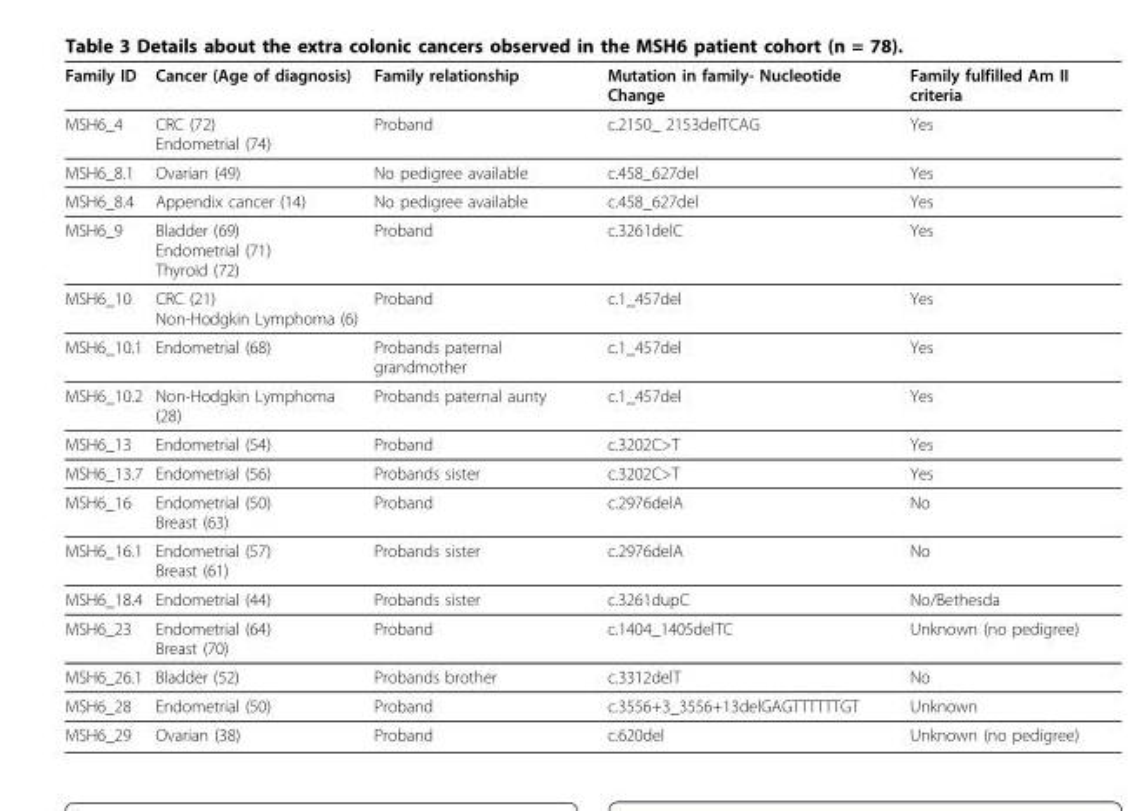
<table><thead><tr><td>Family ID</td><td>Cancer (Age of diagnosis)</td><td>Family relationship</td><td>Mutation in family- Nucleotide Change</td><td>Family fulfilled Am II criteria</td></tr></thead><tbody><tr><td>MSH6_4</td><td>CRC (72) Endometrial (74)</td><td>Proband</td><td>c.2150_ 2153delTCAG</td><td>Yes</td></tr><tr><td>MSH6_8.1</td><td>Ovarian (49)</td><td>No pedigree available</td><td>c.458_627del</td><td>Yes</td></tr><tr><td>MSH6_8.4</td><td>Appendix cancer (14)</td><td>No pedigree available</td><td>c.458_627del</td><td>Yes</td></tr><tr><td>MSH6_9</td><td>Bladder (69) Endometrial (71) Thyroid (72)</td><td>Proband</td><td>c.3261delC</td><td>Yes</td></tr><tr><td>MSH6_10</td><td>CRC (21) Non-Hodgkin Lymphoma (6)</td><td>Proband</td><td>c.1_457del</td><td>Yes</td></tr><tr><td>MSH6_10.1</td><td>Endometrial (68)</td><td>Probands paternal grandmother</td><td>c.1_457del</td><td>Yes</td></tr><tr><td>MSH6_10.2</td><td>Non-Hodgkin Lymphoma (28)</td><td>Probands paternal aunty</td><td>c.1_457del</td><td>Yes</td></tr><tr><td>MSH6_13</td><td>Endometrial (54)</td><td>Proband</td><td>c.3202C&gt;T</td><td>Yes</td></tr><tr><td>MSH6_13.7</td><td>Endometrial (56)</td><td>Probands sister</td><td>c.3202C&gt;T</td><td>Yes</td></tr><tr><td>MSH6_16</td><td>Endometrial (50) Breast (63)</td><td>Proband</td><td>c.2976delA</td><td>No</td></tr><tr><td>MSH6_16.1</td><td>Endometrial (57) Breast (61)</td><td>Probands sister</td><td>c.2976delA</td><td>No</td></tr><tr><td>MSH6_18.4</td><td>Endometrial (44)</td><td>Probands sister</td><td>c.3261dupC</td><td>No/Bethesda</td></tr><tr><td>MSH6_23</td><td>Endometrial (64) Breast (70)</td><td>Proband</td><td>c.1404_1405delTC</td><td>Unknown (no pedigree)</td></tr><tr><td>MSH6_26.1</td><td>Bladder (52)</td><td>Probands brother</td><td>c.3312delT</td><td>No</td></tr><tr><td>MSH6_28</td><td>Endometrial (50)</td><td>Proband</td><td>c.3556+3_3556+13delGAGTTTTTTGT</td><td>Unknown</td></tr><tr><td>MSH6_29</td><td>Ovarian (38)</td><td>Proband</td><td>c.620del</td><td>Unknown (no pedigree)</td></tr></tbody></table>